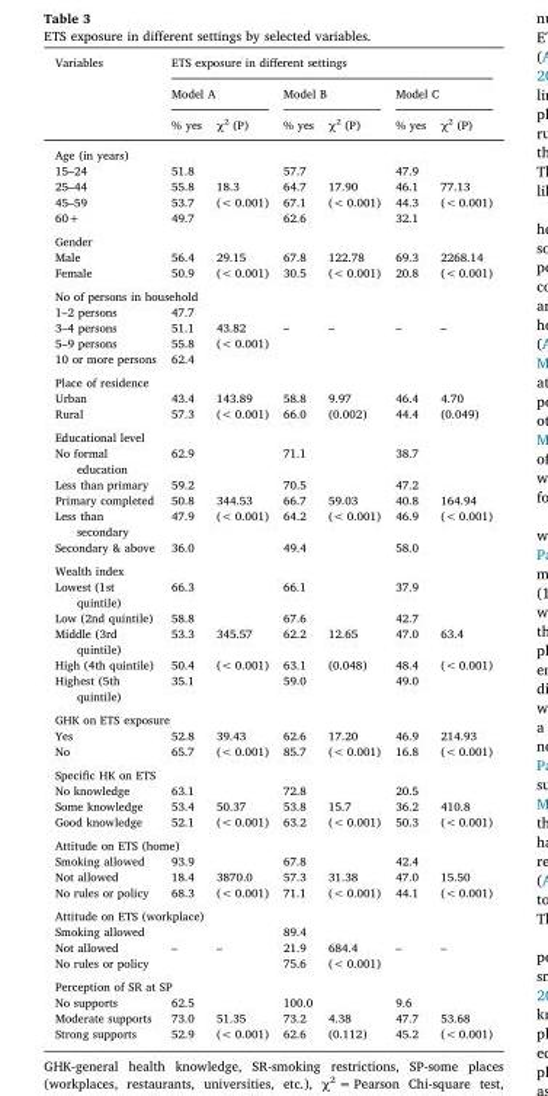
<table><thead><tr><td rowspan="3">Variables</td><td colspan="6">ETS exposure in different settings</td></tr><tr><td colspan="2">Model A</td><td colspan="2">Model B</td><td colspan="2">Model C</td></tr><tr><td>% yes</td><td>χ<sup>2</sup> (P)</td><td>% yes</td><td>χ<sup>2</sup> (P)</td><td>% yes</td><td>χ<sup>2</sup> (P)</td></tr></thead><tbody><tr><td colspan="7">Age (in years)</td></tr><tr><td>15–24</td><td>51.8</td><td></td><td>57.7</td><td></td><td>47.9</td><td></td></tr><tr><td>25–44</td><td>55.8</td><td>18.3</td><td>64.7</td><td>17.90</td><td>46.1</td><td>77.13</td></tr><tr><td>45–59</td><td>53.7</td><td>(&lt; 0.001)</td><td>67.1</td><td>(&lt; 0.001)</td><td>44.3</td><td>(&lt; 0.001)</td></tr><tr><td>60+</td><td>49.7</td><td></td><td>62.6</td><td></td><td>32.1</td><td></td></tr><tr><td colspan="7">Gender</td></tr><tr><td>Male</td><td>56.4</td><td>29.15</td><td>67.8</td><td>122.78</td><td>69.3</td><td>2268.14</td></tr><tr><td>Female</td><td>50.9</td><td>(&lt; 0.001)</td><td>30.5</td><td>(&lt; 0.001)</td><td>20.8</td><td>(&lt; 0.001)</td></tr><tr><td colspan="7">No of persons in household</td></tr><tr><td>1–2 persons</td><td>47.7</td><td></td><td></td><td></td><td></td><td></td></tr><tr><td>3–4 persons</td><td>51.1</td><td>43.82</td><td>–</td><td>–</td><td>–</td><td>–</td></tr><tr><td>5–9 persons</td><td>55.8</td><td>(&lt; 0.001)</td><td></td><td></td><td></td><td></td></tr><tr><td>10 or more persons</td><td>62.4</td><td></td><td></td><td></td><td></td><td></td></tr><tr><td colspan="7">Place of residence</td></tr><tr><td>Urban</td><td>43.4</td><td>143.89</td><td>58.8</td><td>9.97</td><td>46.4</td><td>4.70</td></tr><tr><td>Rural</td><td>57.3</td><td>(&lt; 0.001)</td><td>66.0</td><td>(0.002)</td><td>44.4</td><td>(0.049)</td></tr><tr><td colspan="7">Educational level</td></tr><tr><td>No formal education</td><td>62.9</td><td></td><td>71.1</td><td></td><td>38.7</td><td></td></tr><tr><td>Less than primary</td><td>59.2</td><td></td><td>70.5</td><td></td><td>47.2</td><td></td></tr><tr><td>Primary completed</td><td>50.8</td><td>344.53</td><td>66.7</td><td>59.03</td><td>40.8</td><td>164.94</td></tr><tr><td>Less than secondary</td><td>47.9</td><td>(&lt; 0.001)</td><td>64.2</td><td>(&lt; 0.001)</td><td>46.9</td><td>(&lt; 0.001)</td></tr><tr><td>Secondary &amp; above</td><td>36.0</td><td></td><td>49.4</td><td></td><td>58.0</td><td></td></tr><tr><td colspan="7">Wealth index</td></tr><tr><td>Lowest (1st quintile)</td><td>66.3</td><td></td><td>66.1</td><td></td><td>37.9</td><td></td></tr><tr><td>Low (2nd quintile)</td><td>58.8</td><td></td><td>67.6</td><td></td><td>42.7</td><td></td></tr><tr><td>Middle (3rd quintile)</td><td>53.3</td><td>345.57</td><td>62.2</td><td>12.65</td><td>47.0</td><td>63.4</td></tr><tr><td>High (4th quintile)</td><td>50.4</td><td>(&lt; 0.001)</td><td>63.1</td><td>(0.048)</td><td>48.4</td><td>(&lt; 0.001)</td></tr><tr><td>Highest (5th quintile)</td><td>35.1</td><td></td><td>59.0</td><td></td><td>49.0</td><td></td></tr><tr><td colspan="7">GHK on ETS exposure</td></tr><tr><td>Yes</td><td>52.8</td><td>39.43</td><td>62.6</td><td>17.20</td><td>46.9</td><td>214.93</td></tr><tr><td>No</td><td>65.7</td><td>(&lt; 0.001)</td><td>85.7</td><td>(&lt; 0.001)</td><td>16.8</td><td>(&lt; 0.001)</td></tr><tr><td colspan="7">Specific HK on ETS</td></tr><tr><td>No knowledge</td><td>63.1</td><td></td><td>72.8</td><td></td><td>20.5</td><td></td></tr><tr><td>Some knowledge</td><td>53.4</td><td>50.37</td><td>53.8</td><td>15.7</td><td>36.2</td><td>410.8</td></tr><tr><td>Good knowledge</td><td>52.1</td><td>(&lt; 0.001)</td><td>63.2</td><td>(&lt; 0.001)</td><td>50.3</td><td>(&lt; 0.001)</td></tr><tr><td colspan="7">Attitude on ETS (home)</td></tr><tr><td>Smoking allowed</td><td>93.9</td><td></td><td>67.8</td><td></td><td>42.4</td><td></td></tr><tr><td>Not allowed</td><td>18.4</td><td>3870.0</td><td>57.3</td><td>31.38</td><td>47.0</td><td>15.50</td></tr><tr><td>No rules or policy</td><td>68.3</td><td>(&lt; 0.001)</td><td>71.1</td><td>(&lt; 0.001)</td><td>44.1</td><td>(&lt; 0.001)</td></tr><tr><td colspan="7">Attitude on ETS (workplace)</td></tr><tr><td>Smoking allowed</td><td></td><td></td><td>89.4</td><td></td><td></td><td></td></tr><tr><td>Not allowed</td><td>–</td><td>–</td><td>21.9</td><td>684.4</td><td>–</td><td>–</td></tr><tr><td>No rules or policy</td><td></td><td></td><td>75.6</td><td>(&lt; 0.001)</td><td></td><td></td></tr><tr><td colspan="7">Perception of SR at SP</td></tr><tr><td>No supports</td><td>62.5</td><td></td><td>100.0</td><td></td><td>9.6</td><td></td></tr><tr><td>Moderate supports</td><td>73.0</td><td>51.35</td><td>73.2</td><td>4.38</td><td>47.7</td><td>53.68</td></tr><tr><td>Strong supports</td><td>52.9</td><td>(&lt; 0.001)</td><td>62.6</td><td>(0.112)</td><td>45.2</td><td>(&lt; 0.001)</td></tr></tbody></table>